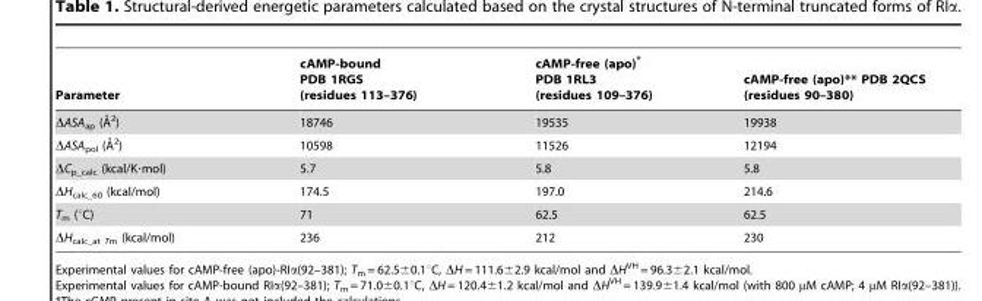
<table><thead><tr><td>Parameter</td><td>cAMP-bound PDB 1RGS (residues 113–376)</td><td>cAMP-free (apo)* PDB 1RL3 (residues 109–376)</td><td>cAMP-free (apo)** PDB 2QCS (residues 90–380)</td></tr></thead><tbody><tr><td>DASAap (A˚2)</td><td>18746</td><td>19535</td><td>19938</td></tr><tr><td>DASApol (A˚2)</td><td>10598</td><td>11526</td><td>12194</td></tr><tr><td>ΔC<sub>p_calc</sub> (kcal/K·mol)</td><td>5.7</td><td>5.8</td><td>5.8</td></tr><tr><td>ΔH<sub>calc_60</sub> (kcal/mol)</td><td>174.5</td><td>197.0</td><td>214.6</td></tr><tr><td>T<sub>m</sub> (°C)</td><td>71</td><td>62.5</td><td>62.5</td></tr><tr><td>ΔH<sub>calc_at Tm</sub> (kcal/mol)</td><td>236</td><td>212</td><td>230</td></tr></tbody></table>